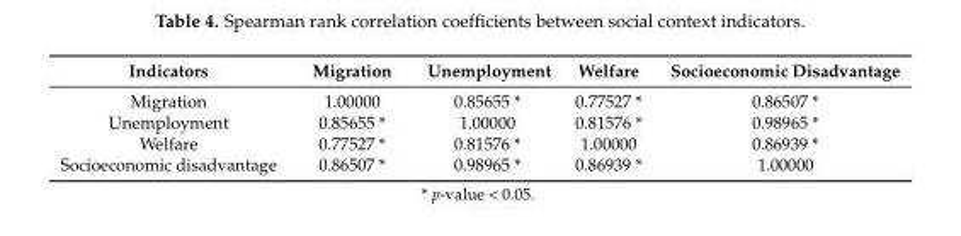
<table><thead><tr><td>Indicators</td><td>Migration</td><td>Unemployment</td><td>Welfare</td><td>Socioeconomic Disadvantage</td></tr></thead><tbody><tr><td>Migration</td><td>1.00000</td><td>0.85655 *</td><td>0.77527 *</td><td>0.86507 *</td></tr><tr><td>Unemployment</td><td>0.85655 *</td><td>1.00000</td><td>0.81576 *</td><td>0.98965 *</td></tr><tr><td>Welfare</td><td>0.77527 *</td><td>0.81576 *</td><td>1.00000</td><td>0.86939 *</td></tr><tr><td>Socioeconomic disadvantage</td><td>0.86507 *</td><td>0.98965 *</td><td>0.86939 *</td><td>1.00000</td></tr></tbody></table>